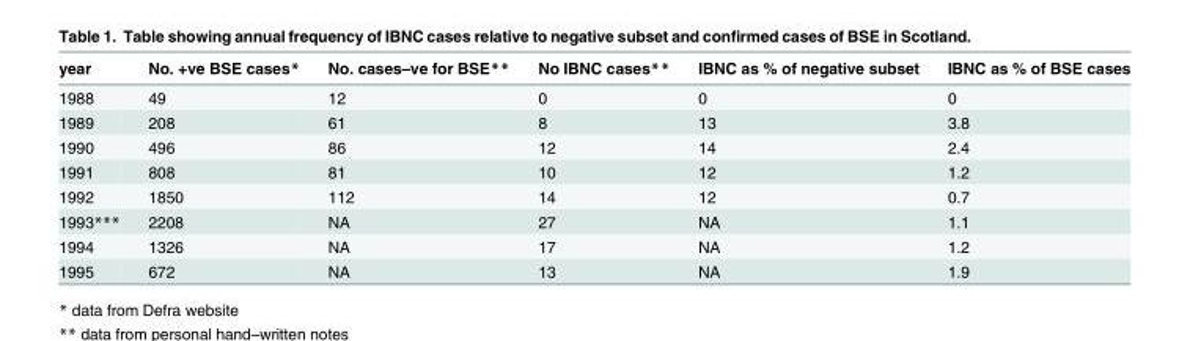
<table><thead><tr><td>year</td><td>No. +ve BSE cases*</td><td>No. cases–ve for BSE**</td><td>No IBNC cases**</td><td>IBNC as % of negative subset</td><td>IBNC as % of BSE cases</td></tr></thead><tbody><tr><td>1988</td><td>49</td><td>12</td><td>0</td><td>0</td><td>0</td></tr><tr><td>1989</td><td>208</td><td>61</td><td>8</td><td>13</td><td>3.8</td></tr><tr><td>1990</td><td>496</td><td>86</td><td>12</td><td>14</td><td>2.4</td></tr><tr><td>1991</td><td>808</td><td>81</td><td>10</td><td>12</td><td>1.2</td></tr><tr><td>1992</td><td>1850</td><td>112</td><td>14</td><td>12</td><td>0.7</td></tr><tr><td>1993***</td><td>2208</td><td>NA</td><td>27</td><td>NA</td><td>1.1</td></tr><tr><td>1994</td><td>1326</td><td>NA</td><td>17</td><td>NA</td><td>1.2</td></tr><tr><td>1995</td><td>672</td><td>NA</td><td>13</td><td>NA</td><td>1.9</td></tr></tbody></table>